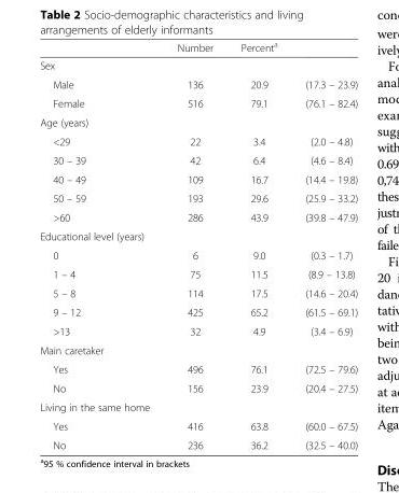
<table><thead><tr><td></td><td>Number</td><td>Percent<sup>a</sup></td><td></td></tr></thead><tbody><tr><td colspan="4">Sex</td></tr><tr><td>Male</td><td>136</td><td>20.9</td><td>(17.3 – 23.9)</td></tr><tr><td>Female</td><td>516</td><td>79.1</td><td>(76.1 – 82.4)</td></tr><tr><td colspan="4">Age (years)</td></tr><tr><td>&lt;29</td><td>22</td><td>3.4</td><td>(2.0 – 4.8)</td></tr><tr><td>30 – 39</td><td>42</td><td>6.4</td><td>(4.6 – 8.4)</td></tr><tr><td>40 – 49</td><td>109</td><td>16.7</td><td>(14.4 – 19.8)</td></tr><tr><td>50 – 59</td><td>193</td><td>29.6</td><td>(25.9 – 33.2)</td></tr><tr><td>&gt;60</td><td>286</td><td>43.9</td><td>(39.8 – 47.9)</td></tr><tr><td colspan="4">Educational level (years)</td></tr><tr><td>0</td><td>6</td><td>9.0</td><td>(0.3 – 1.7)</td></tr><tr><td>1 – 4</td><td>75</td><td>11.5</td><td>(8.9 – 13.8)</td></tr><tr><td>5 – 8</td><td>114</td><td>17.5</td><td>(14.6 – 20.4)</td></tr><tr><td>9 – 12</td><td>425</td><td>65.2</td><td>(61.5 – 69.1)</td></tr><tr><td>&gt;13</td><td>32</td><td>4.9</td><td>(3.4 – 6.9)</td></tr><tr><td colspan="4">Main caretaker</td></tr><tr><td>Yes</td><td>496</td><td>76.1</td><td>(72.5 – 79.6)</td></tr><tr><td>No</td><td>156</td><td>23.9</td><td>(20.4 – 27.5)</td></tr><tr><td colspan="4">Living in the same home</td></tr><tr><td>Yes</td><td>416</td><td>63.8</td><td>(60.0 – 67.5)</td></tr><tr><td>No</td><td>236</td><td>36.2</td><td>(32.5 – 40.0)</td></tr></tbody></table>